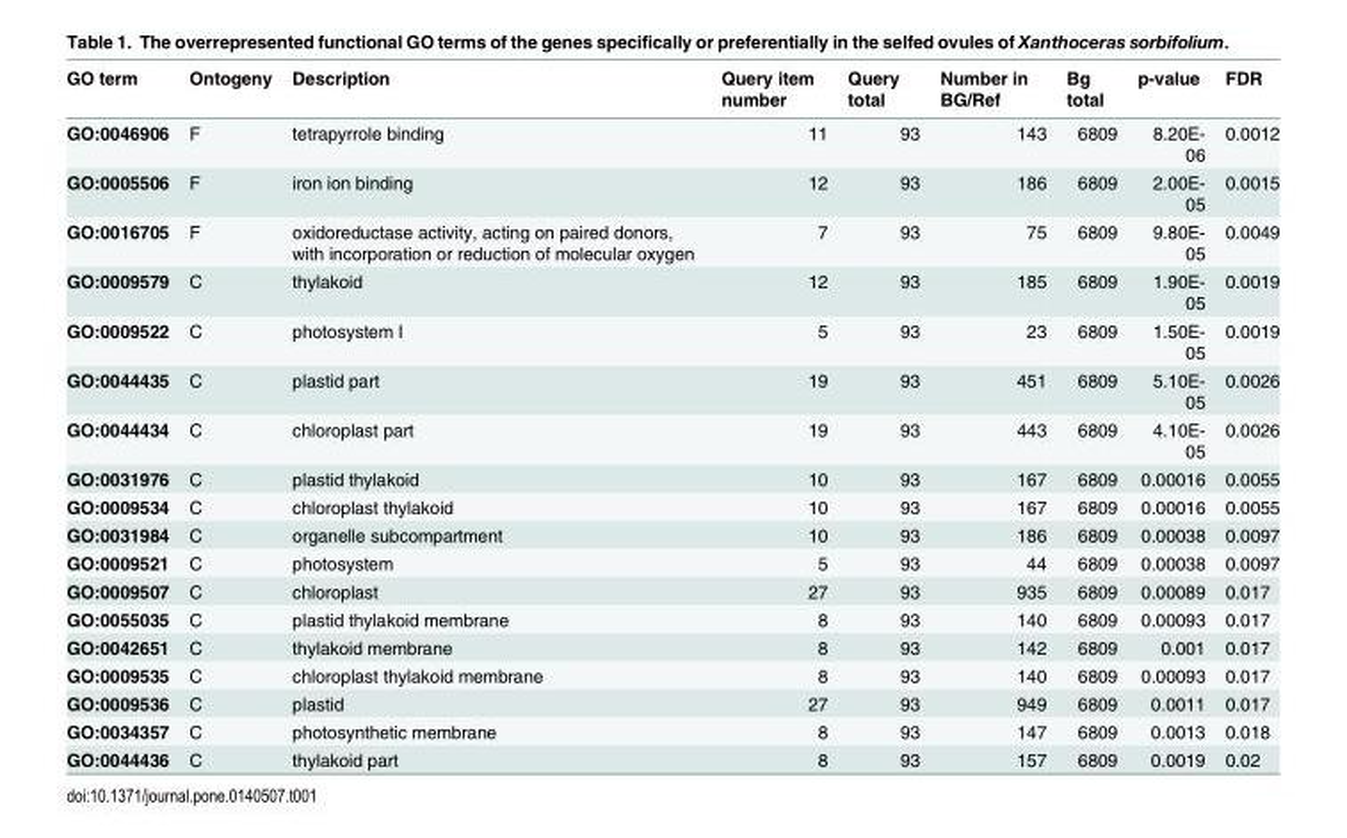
<table><thead><tr><td>GO term</td><td>Ontogeny</td><td>Description</td><td>Query item number</td><td>Query total</td><td>Number in BG/Ref</td><td>Bg total</td><td>p-value</td><td>FDR</td></tr></thead><tbody><tr><td>GO:0046906</td><td>F</td><td>tetrapyrrole binding</td><td>11</td><td>93</td><td>143</td><td>6809</td><td>8.20E- 06</td><td>0.0012</td></tr><tr><td>GO:0005506</td><td>F</td><td>iron ion binding</td><td>12</td><td>93</td><td>186</td><td>6809</td><td>2.00E- 05</td><td>0.0015</td></tr><tr><td>GO:0016705</td><td>F</td><td>oxidoreductase activity, acting on paired donors, with incorporation or reduction of molecular oxygen</td><td>7</td><td>93</td><td>75</td><td>6809</td><td>9.80E- 05</td><td>0.0049</td></tr><tr><td>GO:0009579</td><td>C</td><td>thylakoid</td><td>12</td><td>93</td><td>185</td><td>6809</td><td>1.90E- 05</td><td>0.0019</td></tr><tr><td>GO:0009522</td><td>C</td><td>photosystem I</td><td>5</td><td>93</td><td>23</td><td>6809</td><td>1.50E- 05</td><td>0.0019</td></tr><tr><td>GO:0044435</td><td>C</td><td>plastid part</td><td>19</td><td>93</td><td>451</td><td>6809</td><td>5.10E- 05</td><td>0.0026</td></tr><tr><td>GO:0044434</td><td>C</td><td>chloroplast part</td><td>19</td><td>93</td><td>443</td><td>6809</td><td>4.10E- 05</td><td>0.0026</td></tr><tr><td>GO:0031976</td><td>C</td><td>plastid thylakoid</td><td>10</td><td>93</td><td>167</td><td>6809</td><td>0.00016</td><td>0.0055</td></tr><tr><td>GO:0009534</td><td>C</td><td>chloroplast thylakoid</td><td>10</td><td>93</td><td>167</td><td>6809</td><td>0.00016</td><td>0.0055</td></tr><tr><td>GO:0031984</td><td>C</td><td>organelle subcompartment</td><td>10</td><td>93</td><td>186</td><td>6809</td><td>0.00038</td><td>0.0097</td></tr><tr><td>GO:0009521</td><td>C</td><td>photosystem</td><td>5</td><td>93</td><td>44</td><td>6809</td><td>0.00038</td><td>0.0097</td></tr><tr><td>GO:0009507</td><td>C</td><td>chloroplast</td><td>27</td><td>93</td><td>935</td><td>6809</td><td>0.00089</td><td>0.017</td></tr><tr><td>GO:0055035</td><td>C</td><td>plastid thylakoid membrane</td><td>8</td><td>93</td><td>140</td><td>6809</td><td>0.00093</td><td>0.017</td></tr><tr><td>GO:0042651</td><td>C</td><td>thylakoid membrane</td><td>8</td><td>93</td><td>142</td><td>6809</td><td>0.001</td><td>0.017</td></tr><tr><td>GO:0009535</td><td>C</td><td>chloroplast thylakoid membrane</td><td>8</td><td>93</td><td>140</td><td>6809</td><td>0.00093</td><td>0.017</td></tr><tr><td>GO:0009536</td><td>C</td><td>plastid</td><td>27</td><td>93</td><td>949</td><td>6809</td><td>0.0011</td><td>0.017</td></tr><tr><td>GO:0034357</td><td>C</td><td>photosynthetic membrane</td><td>8</td><td>93</td><td>147</td><td>6809</td><td>0.0013</td><td>0.018</td></tr><tr><td>GO:0044436</td><td>C</td><td>thylakoid part</td><td>8</td><td>93</td><td>157</td><td>6809</td><td>0.0019</td><td>0.02</td></tr></tbody></table>